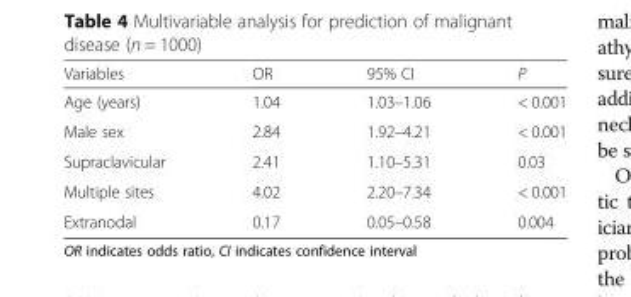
<table><thead><tr><td>Variables</td><td>OR</td><td>95% CI</td><td>P</td></tr></thead><tbody><tr><td>Age (years)</td><td>1.04</td><td>1.03–1.06</td><td>&lt; 0.001</td></tr><tr><td>Male sex</td><td>2.84</td><td>1.92–4.21</td><td>&lt; 0.001</td></tr><tr><td>Supraclavicular</td><td>2.41</td><td>1.10–5.31</td><td>0.03</td></tr><tr><td>Multiple sites</td><td>4.02</td><td>2.20–7.34</td><td>&lt; 0.001</td></tr><tr><td>Extranodal</td><td>0.17</td><td>0.05–0.58</td><td>0.004</td></tr></tbody></table>